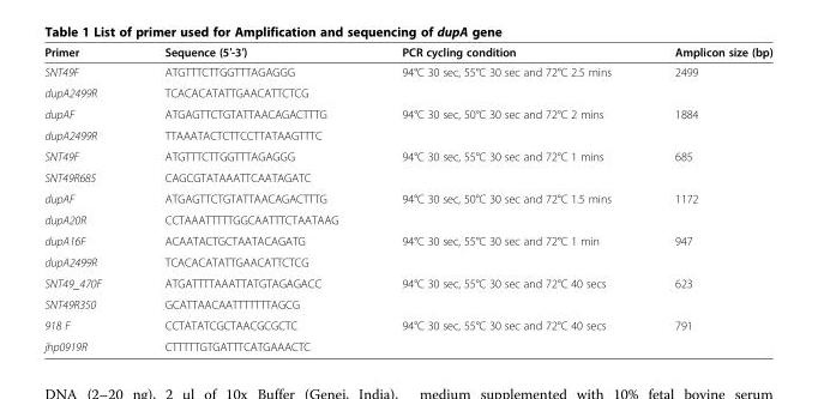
<table><thead><tr><td>Primer</td><td>Sequence (5′-3′)</td><td>PCR cycling condition</td><td>Amplicon size (bp)</td></tr></thead><tbody><tr><td>SNT49F</td><td>ATGTTTCTTGGTTTAGAGGG</td><td rowspan="2">94°C 30 sec, 55°C 30 sec and 72°C 2.5 mins</td><td rowspan="2">2499</td></tr><tr><td>dupA2499R</td><td>TCACACATATTGAACATTCTCG</td></tr><tr><td>dupAF</td><td>ATGAGTTCTGTATTAACAGACTTTG</td><td rowspan="2">94°C 30 sec, 50°C 30 sec and 72°C 2 mins</td><td rowspan="2">1884</td></tr><tr><td>dupA2499R</td><td>TTAAATACTCTTCCTTATAAGTTTC</td></tr><tr><td>SNT49F</td><td>ATGTTTCTTGGTTTAGAGGG</td><td rowspan="2">94°C 30 sec, 55°C 30 sec and 72°C 1 mins</td><td rowspan="2">685</td></tr><tr><td>SNT49R685</td><td>CAGCGTATAAATTCAATAGATC</td></tr><tr><td>dupAF</td><td>ATGAGTTCTGTATTAACAGACTTTG</td><td rowspan="2">94°C 30 sec, 50°C 30 sec and 72°C 1.5 mins</td><td rowspan="2">1172</td></tr><tr><td>dupA20R</td><td>CCTAAATTTTTGGCAATTTCTAATAAG</td></tr><tr><td>dupA16F</td><td>ACAATACTGCTAATACAGATG</td><td rowspan="2">94°C 30 sec, 55°C 30 sec and 72°C 1 min</td><td rowspan="2">947</td></tr><tr><td>dupA2499R</td><td>TCACACATATTGAACATTCTCG</td></tr><tr><td>SNT49_470F</td><td>ATGATTTTAAATTATGTAGAGACC</td><td rowspan="2">94°C 30 sec, 55°C 30 sec and 72°C 40 secs</td><td rowspan="2">623</td></tr><tr><td>SNT49R350</td><td>GCATTAACAATTTTTTTAGCG</td></tr><tr><td>918 F</td><td>CCTATATCGCTAACGCGCTC</td><td rowspan="2">94°C 30 sec, 55°C 30 sec and 72°C 40 secs</td><td rowspan="2">791</td></tr><tr><td>jhp0919R</td><td>CTTTTTGTGATTTCATGAAACTC</td></tr></tbody></table>